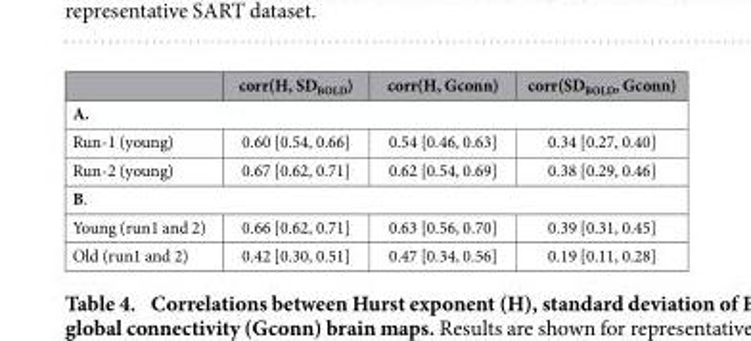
<table><thead><tr><td></td><td>corr(H, SD<sub>BOLD</sub>)</td><td>corr(H, Gconn)</td><td>corr(SD<sub>BOLD</sub>, Gconn)</td></tr></thead><tbody><tr><td colspan="4">A.</td></tr><tr><td>Run-1 (young)</td><td>0.60 [0.54, 0.66]</td><td>0.54 [0.46, 0.63]</td><td>0.34 [0.27, 0.40]</td></tr><tr><td>Run-2 (young)</td><td>0.67 [0.62, 0.71]</td><td>0.62 [0.54, 0.69]</td><td>0.38 [0.29, 0.46]</td></tr><tr><td colspan="4">B.</td></tr><tr><td>Young (run1 and 2)</td><td>0.66 [0.62, 0.71]</td><td>0.63 [0.56, 0.70]</td><td>0.39 [0.31, 0.45]</td></tr><tr><td>Old (run1 and 2)</td><td>0.42 [0.30, 0.51]</td><td>0.47 [0.34, 0.56]</td><td>0.19 [0.11, 0.28]</td></tr></tbody></table>